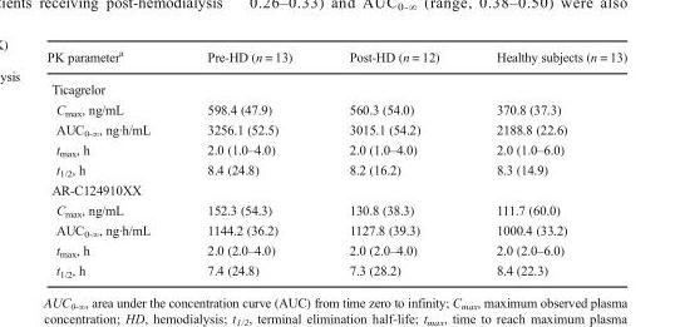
<table><thead><tr><td>PK parameter<sup>a</sup></td><td>Pre-HD (n = 13)</td><td>Post-HD (n = 12)</td><td>Healthy subjects (n = 13)</td></tr></thead><tbody><tr><td colspan="4">Ticagrelor</td></tr><tr><td>C<sub>max</sub>, ng/mL</td><td>598.4 (47.9)</td><td>560.3 (54.0)</td><td>370.8 (37.3)</td></tr><tr><td>AUC<sub>0-∞</sub>, ng·h/mL</td><td>3256.1 (52.5)</td><td>3015.1 (54.2)</td><td>2188.8 (22.6)</td></tr><tr><td>t<sub>max</sub>, h</td><td>2.0 (1.0–4.0)</td><td>2.0 (1.0–4.0)</td><td>2.0 (1.0–6.0)</td></tr><tr><td>t<sub>1/2</sub>, h</td><td>8.4 (24.8)</td><td>8.2 (16.2)</td><td>8.3 (14.9)</td></tr><tr><td colspan="4">AR-C124910XX</td></tr><tr><td>C<sub>max</sub>, ng/mL</td><td>152.3 (54.3)</td><td>130.8 (38.3)</td><td>111.7 (60.0)</td></tr><tr><td>AUC<sub>0-∞</sub>, ng·h/mL</td><td>1144.2 (36.2)</td><td>1127.8 (39.3)</td><td>1000.4 (33.2)</td></tr><tr><td>t<sub>max</sub>, h</td><td>2.0 (2.0–4.0)</td><td>2.0 (2.0–4.0)</td><td>2.0 (2.0–6.0)</td></tr><tr><td>t<sub>1/2</sub>, h</td><td>7.4 (24.8)</td><td>7.3 (28.2)</td><td>8.4 (22.3)</td></tr></tbody></table>